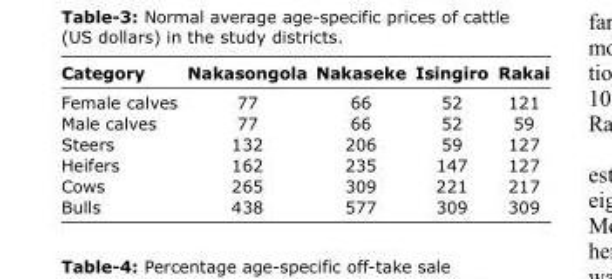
<table><thead><tr><td>Category</td><td>Nakasongola</td><td>Nakaseke</td><td>Isingiro</td><td>Rakai</td></tr></thead><tbody><tr><td>Female calves</td><td>77</td><td>66</td><td>52</td><td>121</td></tr><tr><td>Male calves</td><td>77</td><td>66</td><td>52</td><td>59</td></tr><tr><td>Steers</td><td>132</td><td>206</td><td>59</td><td>127</td></tr><tr><td>Heifers</td><td>162</td><td>235</td><td>147</td><td>127</td></tr><tr><td>Cows</td><td>265</td><td>309</td><td>221</td><td>217</td></tr><tr><td>Bulls</td><td>438</td><td>577</td><td>309</td><td>309</td></tr></tbody></table>